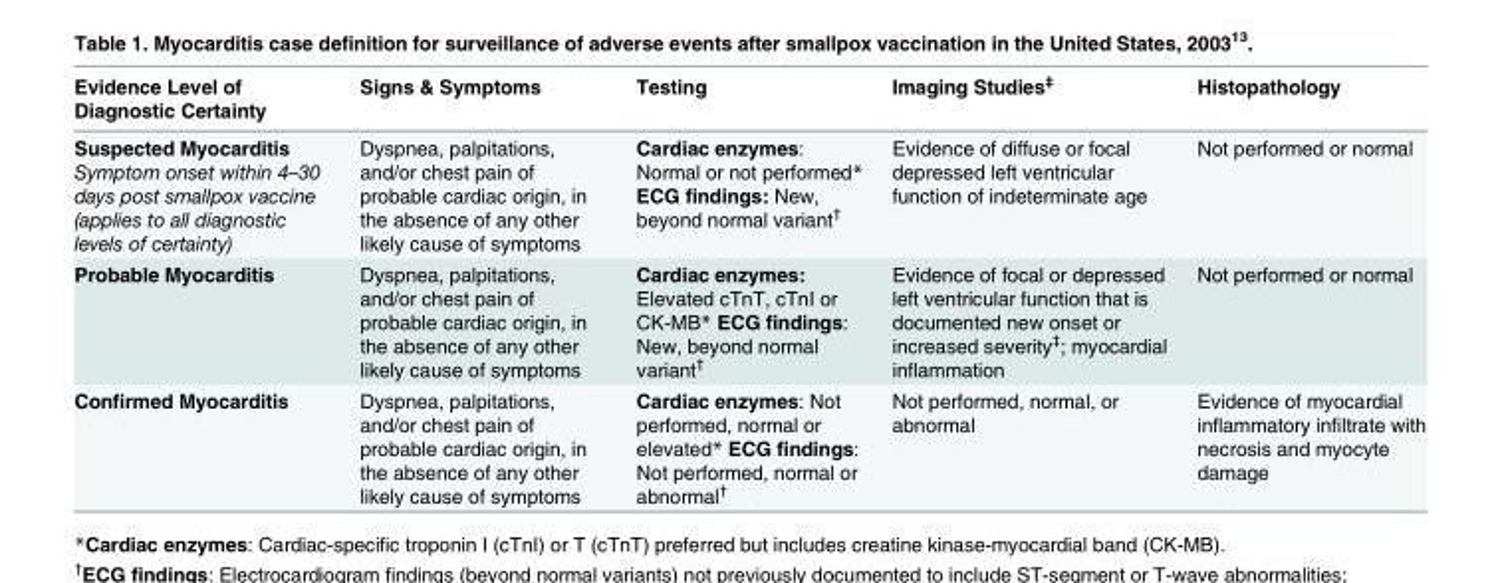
<table><thead><tr><td>Evidence Level of Diagnostic Certainty</td><td>Signs &amp; Symptoms</td><td>Testing</td><td>Imaging Studies<sup>‡</sup></td><td>Histopathology</td></tr></thead><tbody><tr><td>Suspected Myocarditis Symptom onset within 4–30 days post smallpox vaccine (applies to all diagnostic levels of certainty)</td><td>Dyspnea, palpitations, and/or chest pain of probable cardiac origin, in the absence of any other likely cause of symptoms</td><td>Cardiac enzymes: Normal or not performed* ECG findings: New, beyond normal variant<sup>†</sup></td><td>Evidence of diffuse or focal depressed left ventricular function of indeterminate age</td><td>Not performed or normal</td></tr><tr><td>Probable Myocarditis</td><td>Dyspnea, palpitations, and/or chest pain of probable cardiac origin, in the absence of any other likely cause of symptoms</td><td>Cardiac enzymes: Elevated cTnT, cTnI or CK-MB* ECG findings: New, beyond normal variant<sup>†</sup></td><td>Evidence of focal or depressed left ventricular function that is documented new onset or increased severity<sup>‡</sup>; myocardial inflammation</td><td>Not performed or normal</td></tr><tr><td>Confirmed Myocarditis</td><td>Dyspnea, palpitations, and/or chest pain of probable cardiac origin, in the absence of any other likely cause of symptoms</td><td>Cardiac enzymes: Not performed, normal or elevated* ECG findings: Not performed, normal or abnormal<sup>†</sup></td><td>Not performed, normal, or abnormal</td><td>Evidence of myocardial inflammatory infiltrate with necrosis and myocyte damage</td></tr></tbody></table>